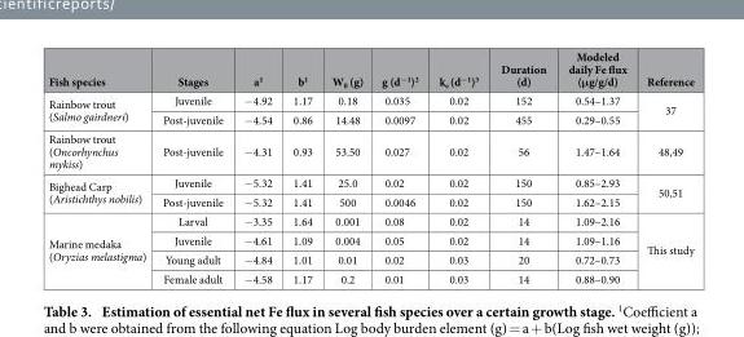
<table><thead><tr><td>Fish species</td><td>Stages</td><td>a<sup>1</sup></td><td>b<sup>1</sup></td><td>W<sub>0</sub> (g)</td><td>g (d<sup>−1</sup>)<sup>2</sup></td><td>k<sub>e</sub> (d<sup>−1</sup>)<sup>3</sup></td><td>Duration (d)</td><td>Modeled daily Fe flux (μg/g/d)</td><td>Reference</td></tr></thead><tbody><tr><td rowspan="2">Rainbow trout (Salmo gairdneri)</td><td>Juvenile</td><td>− 4.92</td><td>1.17</td><td>0.18</td><td>0.035</td><td>0.02</td><td>152</td><td>0.54–1.37</td><td rowspan="2">37</td></tr><tr><td>Post-juvenile</td><td>− 4.54</td><td>0.86</td><td>14.48</td><td>0.0097</td><td>0.02</td><td>455</td><td>0.29–0.55</td></tr><tr><td>Rainbow trout (Oncorhynchus mykiss)</td><td>Post-juvenile</td><td>− 4.31</td><td>0.93</td><td>53.50</td><td>0.027</td><td>0.02</td><td>56</td><td>1.47–1.64</td><td>48,49</td></tr><tr><td rowspan="2">Bighead Carp (Aristichthys nobilis)</td><td>Juvenile</td><td>− 5.32</td><td>1.41</td><td>25.0</td><td>0.02</td><td>0.02</td><td>150</td><td>0.85–2.93</td><td rowspan="2">50,51</td></tr><tr><td>Post-juvenile</td><td>− 5.32</td><td>1.41</td><td>500</td><td>0.0046</td><td>0.02</td><td>150</td><td>1.62–2.15</td></tr><tr><td rowspan="4">Marine medaka (Oryzias melastigma)</td><td>Larval</td><td>− 3.35</td><td>1.64</td><td>0.001</td><td>0.08</td><td>0.02</td><td>14</td><td>1.09–2.16</td><td rowspan="4">This study</td></tr><tr><td>Juvenile</td><td>− 4.61</td><td>1.09</td><td>0.004</td><td>0.05</td><td>0.02</td><td>14</td><td>1.09–1.16</td></tr><tr><td>Young adult</td><td>− 4.84</td><td>1.01</td><td>0.01</td><td>0.02</td><td>0.03</td><td>20</td><td>0.72–0.73</td></tr><tr><td>Female adult</td><td>− 4.58</td><td>1.17</td><td>0.2</td><td>0.01</td><td>0.03</td><td>14</td><td>0.88–0.90</td></tr></tbody></table>